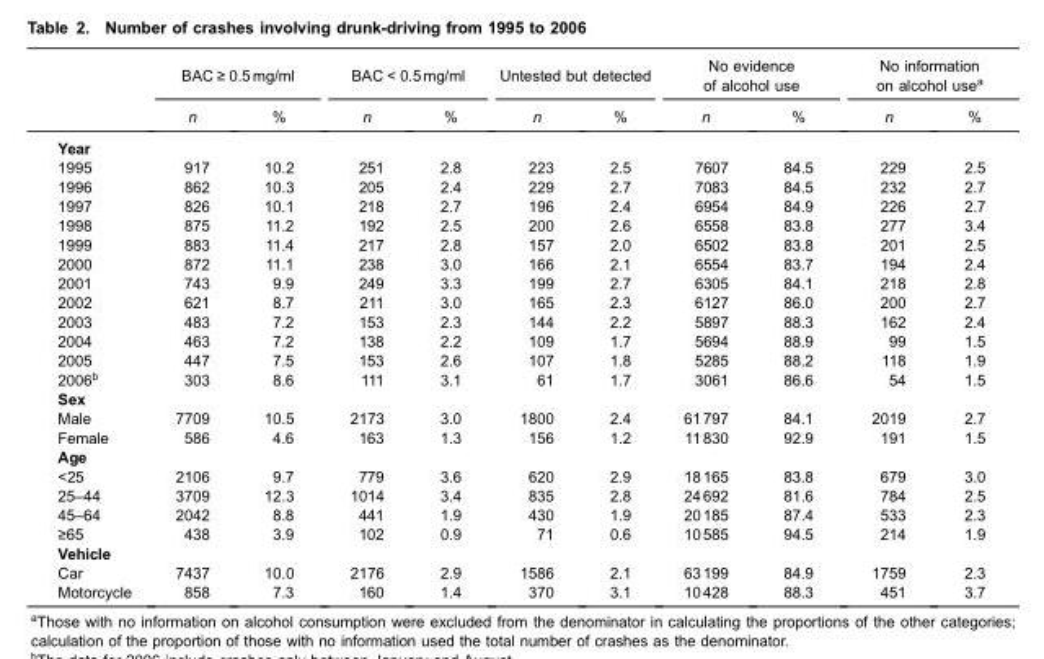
<table><thead><tr><td rowspan="2"></td><td colspan="2">BAC ≥ 0.5 mg/ml</td><td colspan="2">BAC &lt; 0.5 mg/ml</td><td colspan="2">Untested but detected</td><td colspan="2">No evidence of alcohol use</td><td colspan="2">No information on alcohol use<sup>a</sup></td></tr><tr><td>n</td><td>%</td><td>n</td><td>%</td><td>n</td><td>%</td><td>n</td><td>%</td><td>n</td><td>%</td></tr></thead><tbody><tr><td colspan="11">Year</td></tr><tr><td>1995</td><td>917</td><td>10.2</td><td>251</td><td>2.8</td><td>223</td><td>2.5</td><td>7607</td><td>84.5</td><td>229</td><td>2.5</td></tr><tr><td>1996</td><td>862</td><td>10.3</td><td>205</td><td>2.4</td><td>229</td><td>2.7</td><td>7083</td><td>84.5</td><td>232</td><td>2.7</td></tr><tr><td>1997</td><td>826</td><td>10.1</td><td>218</td><td>2.7</td><td>196</td><td>2.4</td><td>6954</td><td>84.9</td><td>226</td><td>2.7</td></tr><tr><td>1998</td><td>875</td><td>11.2</td><td>192</td><td>2.5</td><td>200</td><td>2.6</td><td>6558</td><td>83.8</td><td>277</td><td>3.4</td></tr><tr><td>1999</td><td>883</td><td>11.4</td><td>217</td><td>2.8</td><td>157</td><td>2.0</td><td>6502</td><td>83.8</td><td>201</td><td>2.5</td></tr><tr><td>2000</td><td>872</td><td>11.1</td><td>238</td><td>3.0</td><td>166</td><td>2.1</td><td>6554</td><td>83.7</td><td>194</td><td>2.4</td></tr><tr><td>2001</td><td>743</td><td>9.9</td><td>249</td><td>3.3</td><td>199</td><td>2.7</td><td>6305</td><td>84.1</td><td>218</td><td>2.8</td></tr><tr><td>2002</td><td>621</td><td>8.7</td><td>211</td><td>3.0</td><td>165</td><td>2.3</td><td>6127</td><td>86.0</td><td>200</td><td>2.7</td></tr><tr><td>2003</td><td>483</td><td>7.2</td><td>153</td><td>2.3</td><td>144</td><td>2.2</td><td>5897</td><td>88.3</td><td>162</td><td>2.4</td></tr><tr><td>2004</td><td>463</td><td>7.2</td><td>138</td><td>2.2</td><td>109</td><td>1.7</td><td>5694</td><td>88.9</td><td>99</td><td>1.5</td></tr><tr><td>2005</td><td>447</td><td>7.5</td><td>153</td><td>2.6</td><td>107</td><td>1.8</td><td>5285</td><td>88.2</td><td>118</td><td>1.9</td></tr><tr><td>2006<sup>b</sup></td><td>303</td><td>8.6</td><td>111</td><td>3.1</td><td>61</td><td>1.7</td><td>3061</td><td>86.6</td><td>54</td><td>1.5</td></tr><tr><td colspan="11">Sex</td></tr><tr><td>Male</td><td>7709</td><td>10.5</td><td>2173</td><td>3.0</td><td>1800</td><td>2.4</td><td>61 797</td><td>84.1</td><td>2019</td><td>2.7</td></tr><tr><td>Female</td><td>586</td><td>4.6</td><td>163</td><td>1.3</td><td>156</td><td>1.2</td><td>11 830</td><td>92.9</td><td>191</td><td>1.5</td></tr><tr><td colspan="11">Age</td></tr><tr><td>&lt;25</td><td>2106</td><td>9.7</td><td>779</td><td>3.6</td><td>620</td><td>2.9</td><td>18 165</td><td>83.8</td><td>679</td><td>3.0</td></tr><tr><td>25–44</td><td>3709</td><td>12.3</td><td>1014</td><td>3.4</td><td>835</td><td>2.8</td><td>24 692</td><td>81.6</td><td>784</td><td>2.5</td></tr><tr><td>45–64</td><td>2042</td><td>8.8</td><td>441</td><td>1.9</td><td>430</td><td>1.9</td><td>20 185</td><td>87.4</td><td>533</td><td>2.3</td></tr><tr><td>≥65</td><td>438</td><td>3.9</td><td>102</td><td>0.9</td><td>71</td><td>0.6</td><td>10 585</td><td>94.5</td><td>214</td><td>1.9</td></tr><tr><td colspan="11">Vehicle</td></tr><tr><td>Car</td><td>7437</td><td>10.0</td><td>2176</td><td>2.9</td><td>1586</td><td>2.1</td><td>63 199</td><td>84.9</td><td>1759</td><td>2.3</td></tr><tr><td>Motorcycle</td><td>858</td><td>7.3</td><td>160</td><td>1.4</td><td>370</td><td>3.1</td><td>10 428</td><td>88.3</td><td>451</td><td>3.7</td></tr></tbody></table>